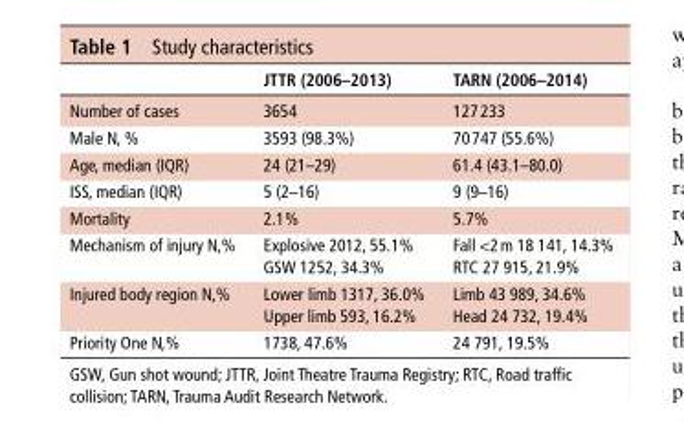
<table><thead><tr><td></td><td>JTTr (2006–2013)</td><td>TArn (2006–2014)</td></tr></thead><tbody><tr><td>Number of cases</td><td>3654</td><td>127 233</td></tr><tr><td>Male N, %</td><td>3593 (98.3%)</td><td>70 747 (55.6%)</td></tr><tr><td>Age, median (IQR)</td><td>24 (21–29)</td><td>61.4 (43.1–80.0)</td></tr><tr><td>ISS, median (IQR)</td><td>5 (2–16)</td><td>9 (9–16)</td></tr><tr><td>Mortality</td><td>2.1%</td><td>5.7%</td></tr><tr><td>Mechanism of injury N,%</td><td>Explosive 2012, 55.1% GSW 1252, 34.3%</td><td>Fall &lt;2 m 18 141, 14.3% RTC 27 915, 21.9%</td></tr><tr><td>Injured body region N,%</td><td>Lower limb 1317, 36.0% Upper limb 593, 16.2%</td><td>Limb 43 989, 34.6% Head 24 732, 19.4%</td></tr><tr><td>Priority One N,%</td><td>1738, 47.6%</td><td>24 791, 19.5%</td></tr></tbody></table>